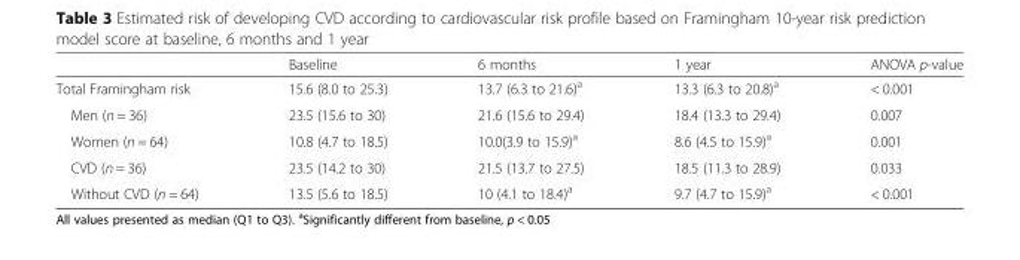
<table><thead><tr><td></td><td>Baseline</td><td>6 months</td><td>1 year</td><td>ANOVA p-value</td></tr></thead><tbody><tr><td>Total Framingham risk</td><td>15.6 (8.0 to 25.3)</td><td>13.7 (6.3 to 21.6)<sup>a</sup></td><td>13.3 (6.3 to 20.8)<sup>a</sup></td><td>&lt; 0.001</td></tr><tr><td>Men (n = 36)</td><td>23.5 (15.6 to 30)</td><td>21.6 (15.6 to 29.4)</td><td>18.4 (13.3 to 29.4)</td><td>0.007</td></tr><tr><td>Women (n = 64)</td><td>10.8 (4.7 to 18.5)</td><td>10.0(3.9 to 15.9)<sup>a</sup></td><td>8.6 (4.5 to 15.9)<sup>a</sup></td><td>0.001</td></tr><tr><td>CVD (n = 36)</td><td>23.5 (14.2 to 30)</td><td>21.5 (13.7 to 27.5)</td><td>18.5 (11.3 to 28.9)</td><td>0.033</td></tr><tr><td>Without CVD (n = 64)</td><td>13.5 (5.6 to 18.5)</td><td>10 (4.1 to 18.4)<sup>a</sup></td><td>9.7 (4.7 to 15.9)<sup>a</sup></td><td>&lt; 0.001</td></tr></tbody></table>